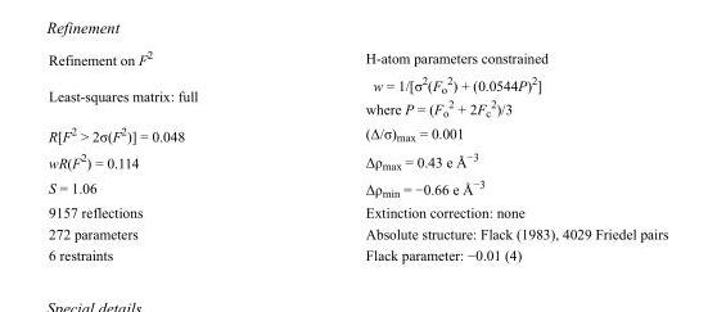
<table><tbody><tr><td>Refinement on F<sup>2</sup></td><td>H-atom parameters constrained</td></tr><tr><td>Least-squares matrix: full</td><td>w = 1/[σ<sup>2</sup>(F<sub>o</sub> <sup>2</sup>) + (0.0544P)<sup>2</sup>] where P = (F<sub>o</sub> <sup>2</sup> + 2F<sub>c</sub> <sup>2</sup>)/3</td></tr><tr><td>R[F<sup>2</sup> &gt; 2σ(F<sup>2</sup>)] = 0.048</td><td>(Δ/σ)<sub>max</sub> = 0.001</td></tr><tr><td>wR(F<sup>2</sup>) = 0.114</td><td>Δρ<sub>max</sub> = 0.43 e Å<sup>−3</sup></td></tr><tr><td>S = 1.06</td><td>Δρ<sub>min</sub> = −0.66 e Å<sup>−3</sup></td></tr><tr><td>9157 reflections</td><td>Extinction correction: none</td></tr><tr><td>272 parameters</td><td>Absolute structure: Flack (1983), 4029 Friedel pairs</td></tr><tr><td>6 restraints</td><td>Flack parameter: −0.01 (4)</td></tr></tbody></table>